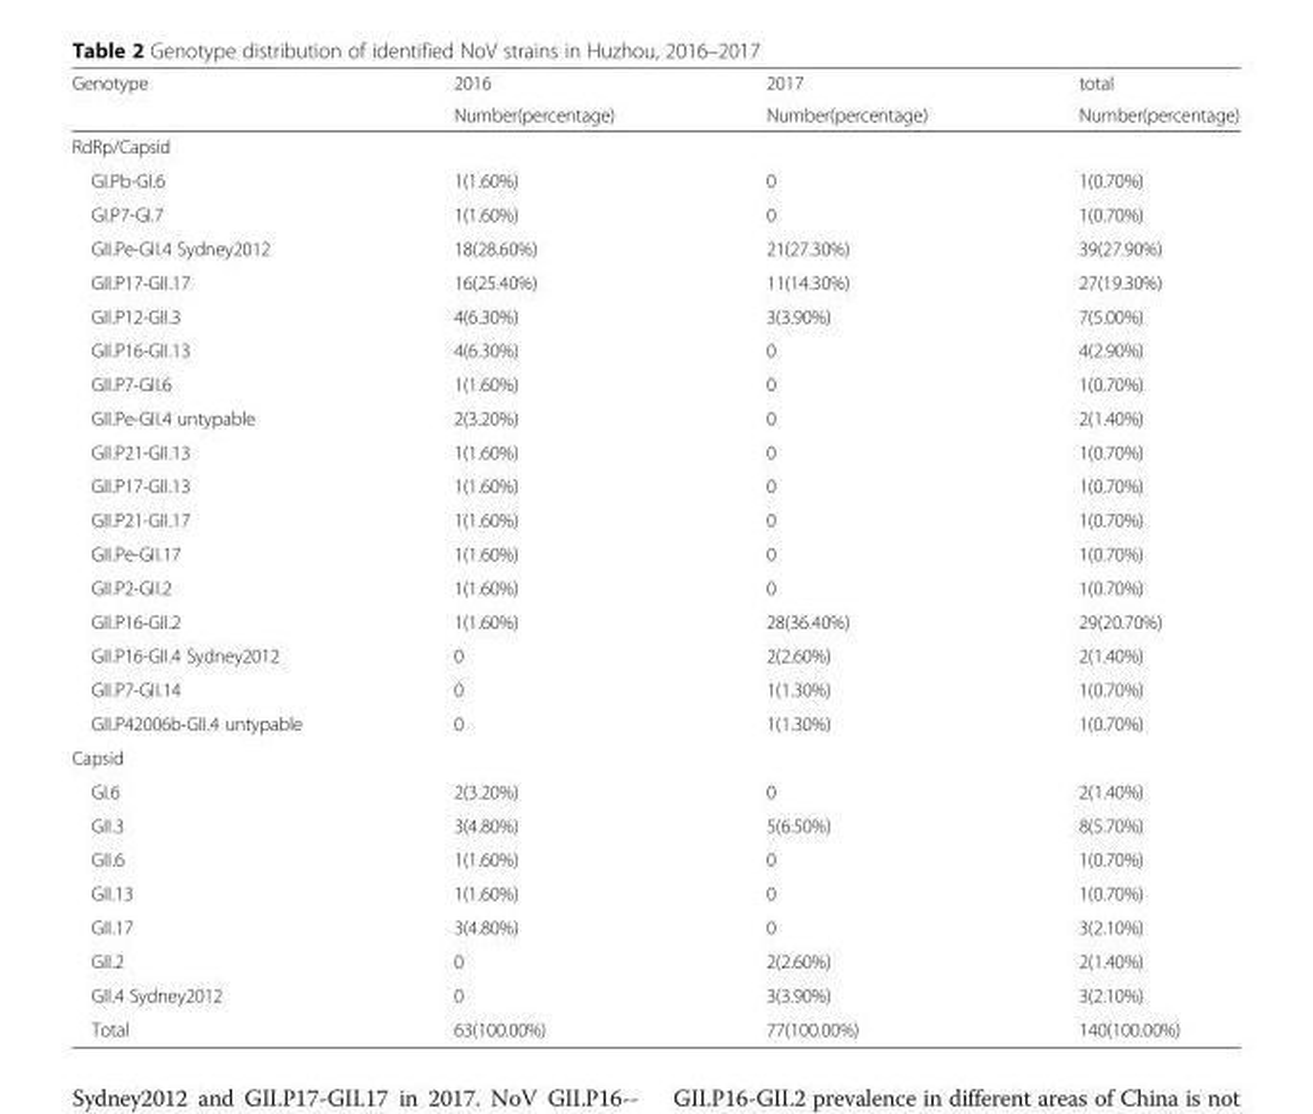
<table><thead><tr><td rowspan="2">Genotype</td><td rowspan="2">2016 Number(percentage)</td><td rowspan="2">2017 Number(percentage)</td><td rowspan="2">total Number(percentage)</td></tr><tr></tr></thead><tbody><tr><td colspan="4">RdRp/Capsid</td></tr><tr><td>GI.Pb-GI.6</td><td>1(1.60%)</td><td>0</td><td>1(0.70%)</td></tr><tr><td>GI.P7-GI.7</td><td>1(1.60%)</td><td>0</td><td>1(0.70%)</td></tr><tr><td>GII.Pe-GII.4 Sydney2012</td><td>18(28.60%)</td><td>21(27.30%)</td><td>39(27.90%)</td></tr><tr><td>GII.P17-GII.17</td><td>16(25.40%)</td><td>11(14.30%)</td><td>27(19.30%)</td></tr><tr><td>GII.P12-GII.3</td><td>4(6.30%)</td><td>3(3.90%)</td><td>7(5.00%)</td></tr><tr><td>GII.P16-GII.13</td><td>4(6.30%)</td><td>0</td><td>4(2.90%)</td></tr><tr><td>GII.P7-GII.6</td><td>1(1.60%)</td><td>0</td><td>1(0.70%)</td></tr><tr><td>GII.Pe-GII.4 untypable</td><td>2(3.20%)</td><td>0</td><td>2(1.40%)</td></tr><tr><td>GII.P21-GII.13</td><td>1(1.60%)</td><td>0</td><td>1(0.70%)</td></tr><tr><td>GII.P17-GII.13</td><td>1(1.60%)</td><td>0</td><td>1(0.70%)</td></tr><tr><td>GII.P21-GII.17</td><td>1(1.60%)</td><td>0</td><td>1(0.70%)</td></tr><tr><td>GII.Pe-GII.17</td><td>1(1.60%)</td><td>0</td><td>1(0.70%)</td></tr><tr><td>GII.P2-GII.2</td><td>1(1.60%)</td><td>0</td><td>1(0.70%)</td></tr><tr><td>GII.P16-GII.2</td><td>1(1.60%)</td><td>28(36.40%)</td><td>29(20.70%)</td></tr><tr><td>GII.P16-GII.4 Sydney2012</td><td>0</td><td>2(2.60%)</td><td>2(1.40%)</td></tr><tr><td>GII.P7-GII.14</td><td>0</td><td>1(1.30%)</td><td>1(0.70%)</td></tr><tr><td>GII.P42006b-GII.4 untypable</td><td>0</td><td>1(1.30%)</td><td>1(0.70%)</td></tr><tr><td colspan="4">Capsid</td></tr><tr><td>GI.6</td><td>2(3.20%)</td><td>0</td><td>2(1.40%)</td></tr><tr><td>GII.3</td><td>3(4.80%)</td><td>5(6.50%)</td><td>8(5.70%)</td></tr><tr><td>GII.6</td><td>1(1.60%)</td><td>0</td><td>1(0.70%)</td></tr><tr><td>GII.13</td><td>1(1.60%)</td><td>0</td><td>1(0.70%)</td></tr><tr><td>GII.17</td><td>3(4.80%)</td><td>0</td><td>3(2.10%)</td></tr><tr><td>GII.2</td><td>0</td><td>2(2.60%)</td><td>2(1.40%)</td></tr><tr><td>GII.4 Sydney2012</td><td>0</td><td>3(3.90%)</td><td>3(2.10%)</td></tr><tr><td>Total</td><td>63(100.00%)</td><td>77(100.00%)</td><td>140(100.00%)</td></tr></tbody></table>